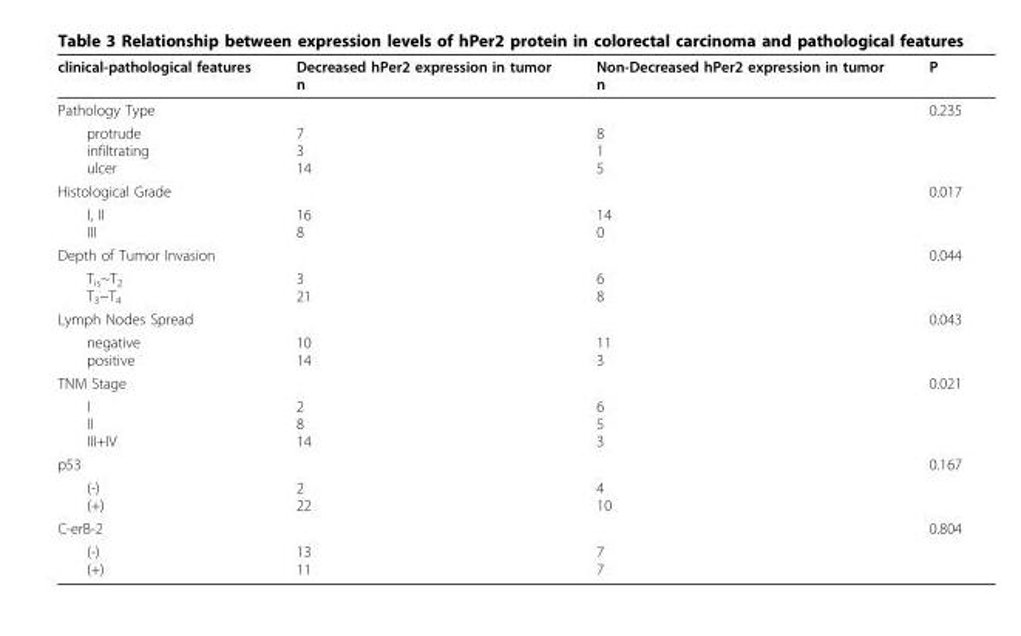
<table><thead><tr><td>clinical-pathological features</td><td>Decreased hPer2 expression in tumor n</td><td>Non-Decreased hPer2 expression in tumor n</td><td>P</td></tr></thead><tbody><tr><td>Pathology Type</td><td></td><td></td><td>0.235</td></tr><tr><td>protrude infiltrating ulcer</td><td>7 3 14</td><td>8 1 5</td><td></td></tr><tr><td>Histological Grade</td><td></td><td></td><td>0.017</td></tr><tr><td>I, II III</td><td>16 8</td><td>14 0</td><td></td></tr><tr><td>Depth of Tumor Invasion</td><td></td><td></td><td>0.044</td></tr><tr><td>T<sub>is</sub>~T<sub>2</sub> T<sub>3</sub>~T<sub>4</sub></td><td>3 21</td><td>6 8</td><td></td></tr><tr><td>Lymph Nodes Spread</td><td></td><td></td><td>0.043</td></tr><tr><td>negative positive</td><td>10 14</td><td>11 3</td><td></td></tr><tr><td>TNM Stage</td><td></td><td></td><td>0.021</td></tr><tr><td>I II III+IV</td><td>2 8 14</td><td>6 5 3</td><td></td></tr><tr><td>p53</td><td></td><td></td><td>0.167</td></tr><tr><td>(-) (+)</td><td>2 22</td><td>4 10</td><td></td></tr><tr><td>C-erB-2</td><td></td><td></td><td>0.804</td></tr><tr><td>(-) (+)</td><td>13 11</td><td>7 7</td><td></td></tr></tbody></table>